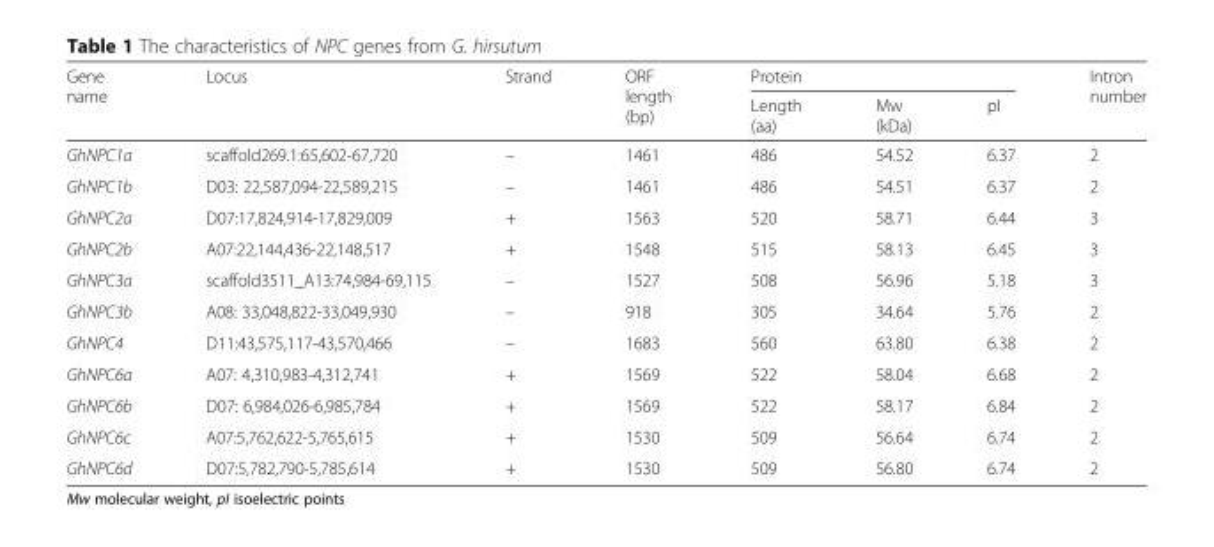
<table><thead><tr><td rowspan="2">Gene name</td><td rowspan="2">Locus</td><td rowspan="2">Strand</td><td rowspan="2">ORF length (bp)</td><td colspan="3">Protein</td><td rowspan="2">Intron number</td></tr><tr><td>Length (aa)</td><td>Mw (kDa)</td><td>pI</td></tr></thead><tbody><tr><td>GhNPC1a</td><td>scaffold269.1:65,602-67,720</td><td>–</td><td>1461</td><td>486</td><td>54.52</td><td>6.37</td><td>2</td></tr><tr><td>GhNPC1b</td><td>D03: 22,587,094-22,589,215</td><td>–</td><td>1461</td><td>486</td><td>54.51</td><td>6.37</td><td>2</td></tr><tr><td>GhNPC2a</td><td>D07:17,824,914-17,829,009</td><td>+</td><td>1563</td><td>520</td><td>58.71</td><td>6.44</td><td>3</td></tr><tr><td>GhNPC2b</td><td>A07:22,144,436-22,148,517</td><td>+</td><td>1548</td><td>515</td><td>58.13</td><td>6.45</td><td>3</td></tr><tr><td>GhNPC3a</td><td>scaffold3511_A13:74,984-69,115</td><td>–</td><td>1527</td><td>508</td><td>56.96</td><td>5.18</td><td>3</td></tr><tr><td>GhNPC3b</td><td>A08: 33,048,822-33,049,930</td><td>–</td><td>918</td><td>305</td><td>34.64</td><td>5.76</td><td>2</td></tr><tr><td>GhNPC4</td><td>D11:43,575,117-43,570,466</td><td>–</td><td>1683</td><td>560</td><td>63.80</td><td>6.38</td><td>2</td></tr><tr><td>GhNPC6a</td><td>A07: 4,310,983-4,312,741</td><td>+</td><td>1569</td><td>522</td><td>58.04</td><td>6.68</td><td>2</td></tr><tr><td>GhNPC6b</td><td>D07: 6,984,026-6,985,784</td><td>+</td><td>1569</td><td>522</td><td>58.17</td><td>6.84</td><td>2</td></tr><tr><td>GhNPC6c</td><td>A07:5,762,622-5,765,615</td><td>+</td><td>1530</td><td>509</td><td>56.64</td><td>6.74</td><td>2</td></tr><tr><td>GhNPC6d</td><td>D07:5,782,790-5,785,614</td><td>+</td><td>1530</td><td>509</td><td>56.80</td><td>6.74</td><td>2</td></tr></tbody></table>